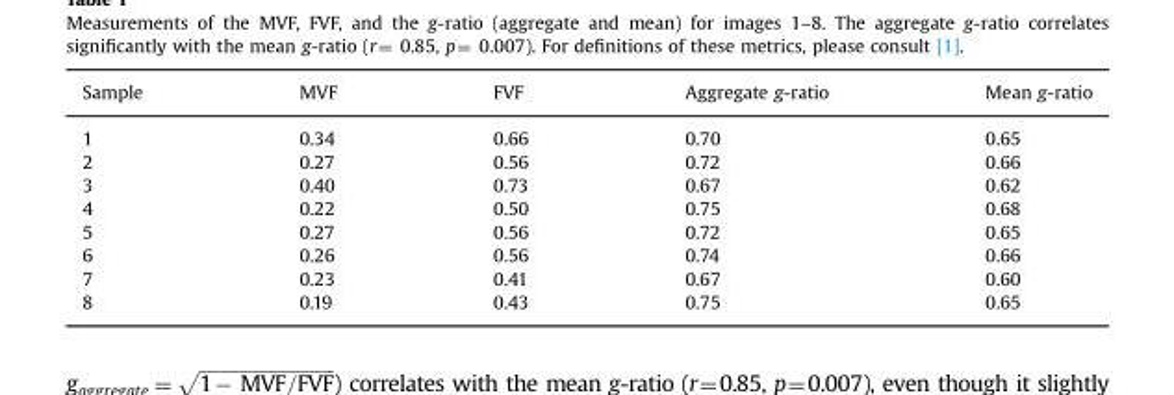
<table><thead><tr><td>Sample</td><td>MVF</td><td>FVF</td><td>Aggregate g-ratio</td><td>Mean g-ratio</td></tr></thead><tbody><tr><td>1</td><td>0.34</td><td>0.66</td><td>0.70</td><td>0.65</td></tr><tr><td>2</td><td>0.27</td><td>0.56</td><td>0.72</td><td>0.66</td></tr><tr><td>3</td><td>0.40</td><td>0.73</td><td>0.67</td><td>0.62</td></tr><tr><td>4</td><td>0.22</td><td>0.50</td><td>0.75</td><td>0.68</td></tr><tr><td>5</td><td>0.27</td><td>0.56</td><td>0.72</td><td>0.65</td></tr><tr><td>6</td><td>0.26</td><td>0.56</td><td>0.74</td><td>0.66</td></tr><tr><td>7</td><td>0.23</td><td>0.41</td><td>0.67</td><td>0.60</td></tr><tr><td>8</td><td>0.19</td><td>0.43</td><td>0.75</td><td>0.65</td></tr></tbody></table>